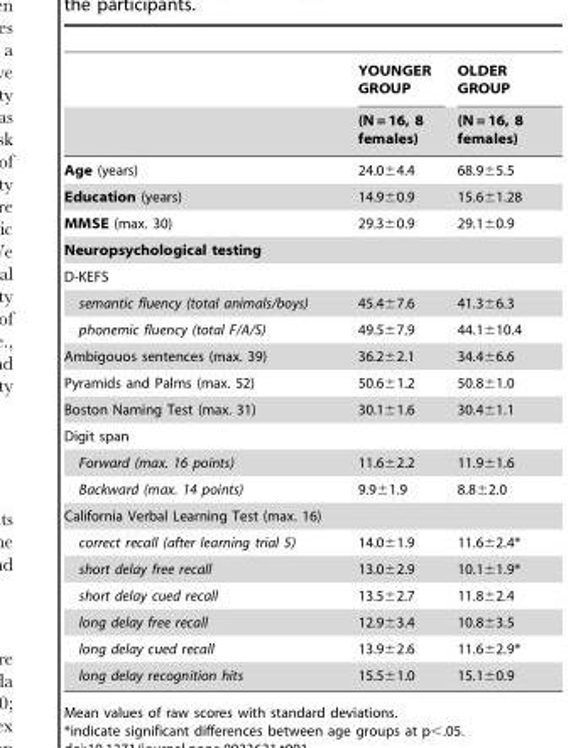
<table><thead><tr><td rowspan="2"></td><td rowspan="2">YOUNGER GROUP (N = 16, 8 females)</td><td rowspan="2">OLDER GROUP (N = 16, 8 females)</td></tr><tr></tr></thead><tbody><tr><td>Age (years)</td><td>24.0±4.4</td><td>68.9±5.5</td></tr><tr><td>Education (years)</td><td>14.9±0.9</td><td>15.6±1.28</td></tr><tr><td>MMSE (max. 30)</td><td>29.3±0.9</td><td>29.1±0.9</td></tr><tr><td colspan="3">Neuropsychological testing</td></tr><tr><td colspan="3">D-KEFS</td></tr><tr><td>semantic fluency (total animals/boys)</td><td>45.4±7.6</td><td>41.3±6.3</td></tr><tr><td>phonemic fluency (total F/A/S)</td><td>49.5±7.9</td><td>44.1±10.4</td></tr><tr><td>Ambigouos sentences (max. 39)</td><td>36.2±2.1</td><td>34.4±6.6</td></tr><tr><td>Pyramids and Palms (max. 52)</td><td>50.6±1.2</td><td>50.8±1.0</td></tr><tr><td>Boston Naming Test (max. 31)</td><td>30.1±1.6</td><td>30.4±1.1</td></tr><tr><td colspan="3">Digit span</td></tr><tr><td>Forward (max. 16 points)</td><td>11.6±2.2</td><td>11.9±1.6</td></tr><tr><td>Backward (max. 14 points)</td><td>9.9±1.9</td><td>8.8±2.0</td></tr><tr><td colspan="3">California Verbal Learning Test (max. 16)</td></tr><tr><td>correct recall (after learning trial 5)</td><td>14.0±1.9</td><td>11.6±2.4*</td></tr><tr><td>short delay free recall</td><td>13.0±2.9</td><td>10.1±1.9*</td></tr><tr><td>short delay cued recall</td><td>13.5±2.7</td><td>11.8±2.4</td></tr><tr><td>long delay free recall</td><td>12.9±3.4</td><td>10.8±3.5</td></tr><tr><td>long delay cued recall</td><td>13.9±2.6</td><td>11.6±2.9*</td></tr><tr><td>long delay recognition hits</td><td>15.5±1.0</td><td>15.1±0.9</td></tr></tbody></table>